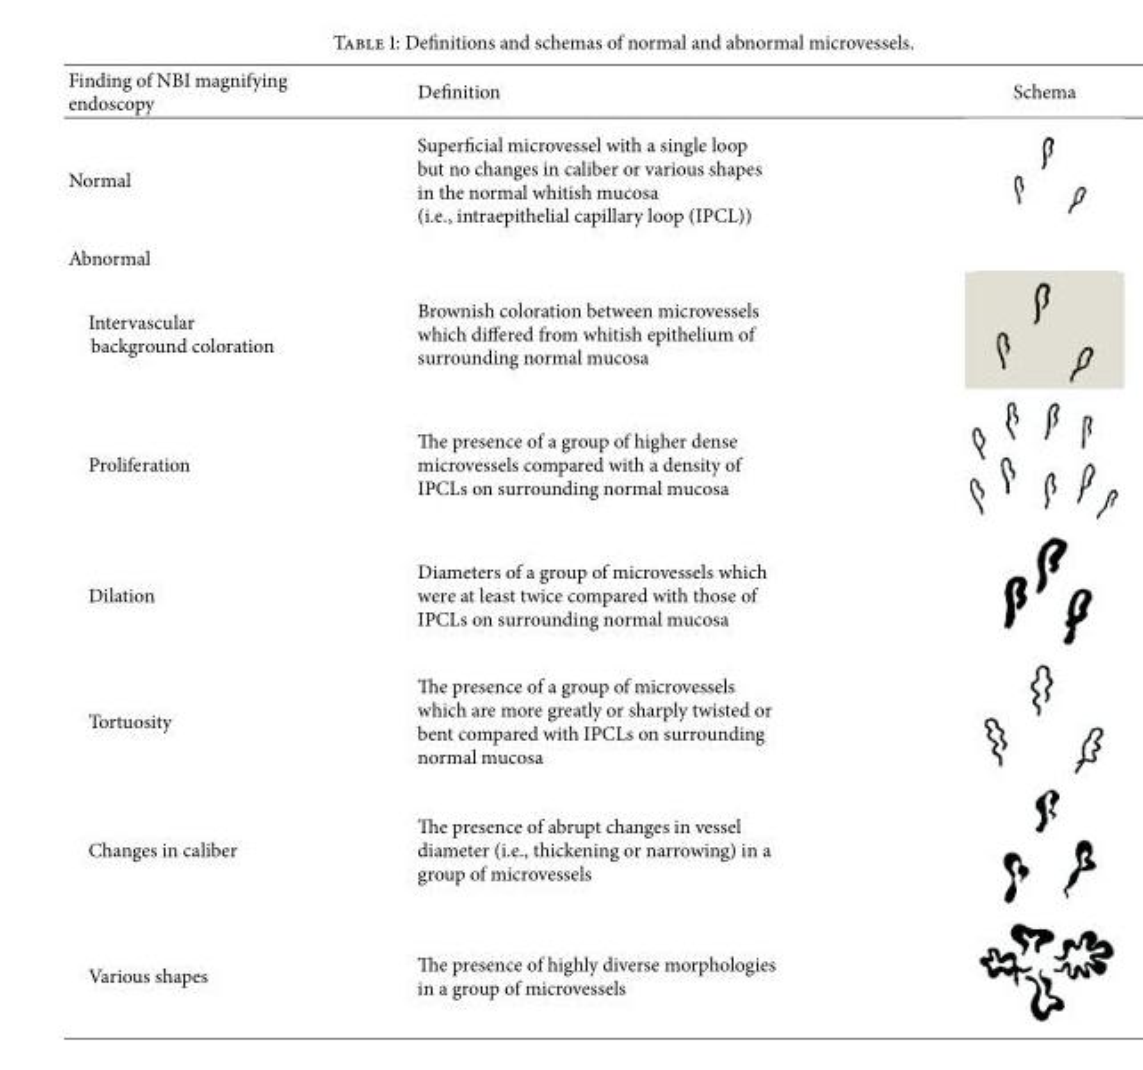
<table><thead><tr><td>Finding of NBI magnifying endoscopy</td><td>Definition</td><td>Schema</td></tr></thead><tbody><tr><td>Normal</td><td>Superficial microvessel with a single loop but no changes in caliber or various shapes in the normal whitish mucosa (i.e., intraepithelial capillary loop (IPCL))</td><td></td></tr><tr><td colspan="3">Abnormal</td></tr><tr><td>Intervascular background coloration</td><td>Brownish coloration between microvessels which differed from whitish epithelium of surrounding normal mucosa</td><td></td></tr><tr><td>Proliferation</td><td>The presence of a group of higher dense microvessels compared with a density of IPCLs on surrounding normal mucosa</td><td></td></tr><tr><td>Dilation</td><td>Diameters of a group of microvessels which were at least twice compared with those of IPCLs on surrounding normal mucosa</td><td></td></tr><tr><td>Tortuosity</td><td>The presence of a group of microvessels which are more greatly or sharply twisted or bent compared with IPCLs on surrounding normal mucosa</td><td></td></tr><tr><td>Changes in caliber</td><td>The presence of abrupt changes in vessel diameter (i.e., thickening or narrowing) in a group of microvessels</td><td></td></tr><tr><td>Various shapes</td><td>The presence of highly diverse morphologies in a group of microvessels</td><td></td></tr></tbody></table>